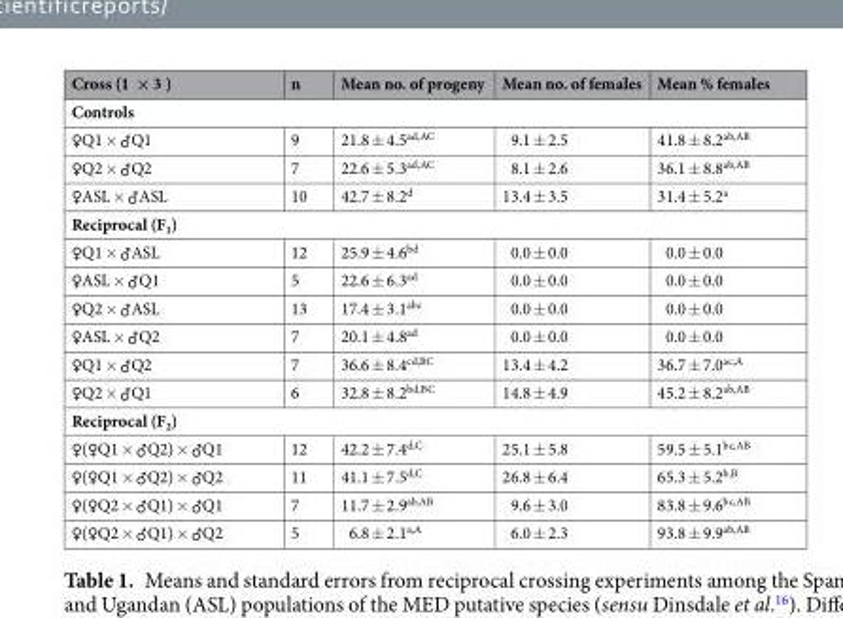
<table><thead><tr><td>Cross (1 × 3 )</td><td>n</td><td>Mean no. of progeny</td><td>Mean no. of females</td><td>Mean % females</td></tr></thead><tbody><tr><td colspan="5">Controls</td></tr><tr><td>♀Q1 × ♂Q1</td><td>9</td><td>21.8 ± 4.5<sup>ad,AC</sup></td><td>9.1 ± 2.5</td><td>41.8 ± 8.2<sup>ab,AB</sup></td></tr><tr><td>♀Q2 × ♂Q2</td><td>7</td><td>22.6 ± 5.3<sup>ad,AC</sup></td><td>8.1 ± 2.6</td><td>36.1 ± 8.8<sup>ab,AB</sup></td></tr><tr><td>♀ASL × ♂ASL</td><td>10</td><td>42.7 ± 8.2<sup>d</sup></td><td>13.4 ± 3.5</td><td>31.4 ± 5.2<sup>a</sup></td></tr><tr><td colspan="5">Reciprocal (F<sub>1</sub>)</td></tr><tr><td>♀Q1 × ♂ASL</td><td>12</td><td>25.9 ± 4.6<sup>bd</sup></td><td>0.0 ± 0.0</td><td>0.0 ± 0.0</td></tr><tr><td>♀ASL × ♂Q1</td><td>5</td><td>22.6 ± 6.3<sup>ad</sup></td><td>0.0 ± 0.0</td><td>0.0 ± 0.0</td></tr><tr><td>♀Q2 × ♂ASL</td><td>13</td><td>17.4 ± 3.1<sup>abc</sup></td><td>0.0 ± 0.0</td><td>0.0 ± 0.0</td></tr><tr><td>♀ASL × ♂Q2</td><td>7</td><td>20.1 ± 4.8<sup>ad</sup></td><td>0.0 ± 0.0</td><td>0.0 ± 0.0</td></tr><tr><td>♀Q1 × ♂Q2</td><td>7</td><td>36.6 ± 8.4<sup>cd,BC</sup></td><td>13.4 ± 4.2</td><td>36.7 ± 7.0<sup>ac,A</sup></td></tr><tr><td>♀Q2 × ♂Q1</td><td>6</td><td>32.8 ± 8.2<sup>bd,BC</sup></td><td>14.8 ± 4.9</td><td>45.2 ± 8.2<sup>ab,AB</sup></td></tr><tr><td colspan="5">Reciprocal (F<sub>2</sub>)</td></tr><tr><td>♀(♀Q1 × ♂Q2) × ♂Q1</td><td>12</td><td>42.2 ± 7.4<sup>d,C</sup></td><td>25.1 ± 5.8</td><td>59.5 ± 5.1<sup>bc,AB</sup></td></tr><tr><td>♀(♀Q1 × ♂Q2) × ♂Q2</td><td>11</td><td>41.1 ± 7.5<sup>d,C</sup></td><td>26.8 ± 6.4</td><td>65.3 ± 5.2<sup>b,B</sup></td></tr><tr><td>♀(♀Q2 × ♂Q1) × ♂Q1</td><td>7</td><td>11.7 ± 2.9<sup>ab,AB</sup></td><td>9.6 ± 3.0</td><td>83.8 ± 9.6<sup>bc,AB</sup></td></tr><tr><td>♀(♀Q2 × ♂Q1) × ♂Q2</td><td>5</td><td>6.8 ± 2.1<sup>a,A</sup></td><td>6.0 ± 2.3</td><td>93.8 ± 9.9<sup>ab,AB</sup></td></tr></tbody></table>